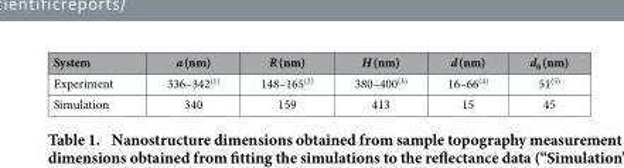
<table><thead><tr><td>System</td><td>a (nm)</td><td>R (nm)</td><td>H (nm)</td><td>d (nm)</td><td>d<sub>0</sub> (nm)</td></tr></thead><tbody><tr><td>Experiment</td><td>336–342<sup>(1)</sup></td><td>148–165<sup>(2)</sup></td><td>380–400<sup>(3)</sup></td><td>16–66<sup>(4)</sup></td><td>51<sup>(5)</sup></td></tr><tr><td>Simulation</td><td>340</td><td>159</td><td>413</td><td>15</td><td>45</td></tr></tbody></table>